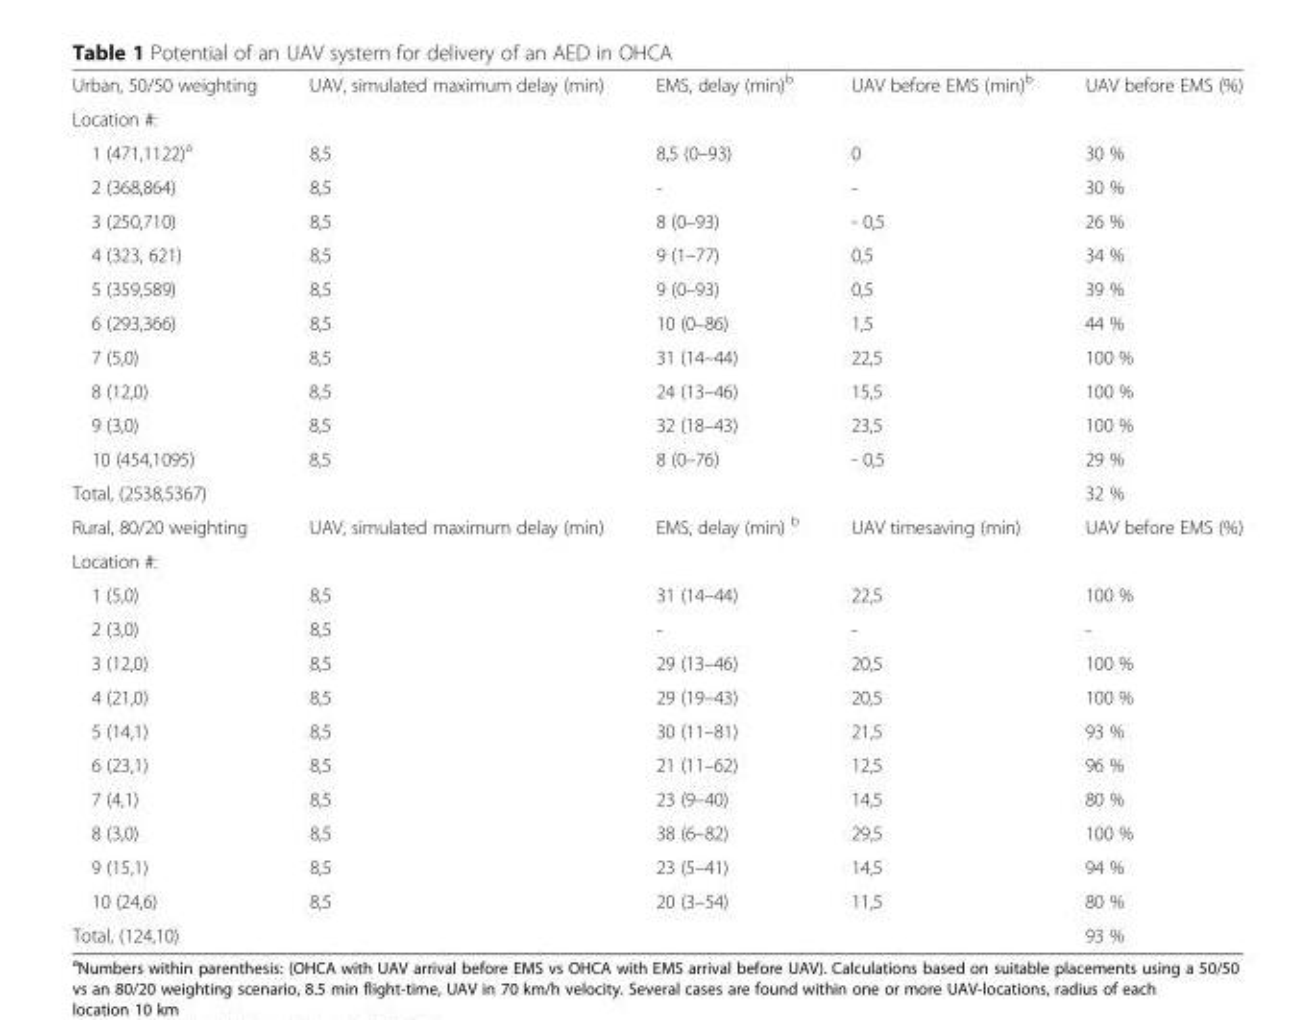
<table><tbody><tr><td>Urban, 50/50 weighting</td><td>UAV, simulated maximum delay (min)</td><td>EMS, delay (min)<sup>b</sup></td><td>UAV before EMS (min)<sup>b</sup></td><td>UAV before EMS (%)</td></tr><tr><td colspan="5">Location #:</td></tr><tr><td>1 (471,1122)<sup>a</sup></td><td>8,5</td><td>8,5 (0–93)</td><td>0</td><td>30 %</td></tr><tr><td>2 (368,864)</td><td>8,5</td><td>-</td><td>-</td><td>30 %</td></tr><tr><td>3 (250,710)</td><td>8,5</td><td>8 (0–93)</td><td>- 0,5</td><td>26 %</td></tr><tr><td>4 (323, 621)</td><td>8,5</td><td>9 (1–77)</td><td>0,5</td><td>34 %</td></tr><tr><td>5 (359,589)</td><td>8,5</td><td>9 (0–93)</td><td>0,5</td><td>39 %</td></tr><tr><td>6 (293,366)</td><td>8,5</td><td>10 (0–86)</td><td>1,5</td><td>44 %</td></tr><tr><td>7 (5,0)</td><td>8,5</td><td>31 (14–44)</td><td>22,5</td><td>100 %</td></tr><tr><td>8 (12,0)</td><td>8,5</td><td>24 (13–46)</td><td>15,5</td><td>100 %</td></tr><tr><td>9 (3,0)</td><td>8,5</td><td>32 (18–43)</td><td>23,5</td><td>100 %</td></tr><tr><td>10 (454,1095)</td><td>8,5</td><td>8 (0–76)</td><td>- 0,5</td><td>29 %</td></tr><tr><td>Total, (2538,5367)</td><td></td><td></td><td></td><td>32 %</td></tr><tr><td>Rural, 80/20 weighting</td><td>UAV, simulated maximum delay (min)</td><td>EMS, delay (min) <sup>b</sup></td><td>UAV timesaving (min)</td><td>UAV before EMS (%)</td></tr><tr><td colspan="5">Location #:</td></tr><tr><td>1 (5,0)</td><td>8,5</td><td>31 (14–44)</td><td>22,5</td><td>100 %</td></tr><tr><td>2 (3,0)</td><td>8,5</td><td>-</td><td>-</td><td>-</td></tr><tr><td>3 (12,0)</td><td>8,5</td><td>29 (13–46)</td><td>20,5</td><td>100 %</td></tr><tr><td>4 (21,0)</td><td>8,5</td><td>29 (19–43)</td><td>20,5</td><td>100 %</td></tr><tr><td>5 (14,1)</td><td>8,5</td><td>30 (11–81)</td><td>21,5</td><td>93 %</td></tr><tr><td>6 (23,1)</td><td>8,5</td><td>21 (11–62)</td><td>12,5</td><td>96 %</td></tr><tr><td>7 (4,1)</td><td>8,5</td><td>23 (9–40)</td><td>14,5</td><td>80 %</td></tr><tr><td>8 (3,0)</td><td>8,5</td><td>38 (6–82)</td><td>29,5</td><td>100 %</td></tr><tr><td>9 (15,1)</td><td>8,5</td><td>23 (5–41)</td><td>14,5</td><td>94 %</td></tr><tr><td>10 (24,6)</td><td>8,5</td><td>20 (3–54)</td><td>11,5</td><td>80 %</td></tr><tr><td>Total, (124,10)</td><td></td><td></td><td></td><td>93 %</td></tr></tbody></table>